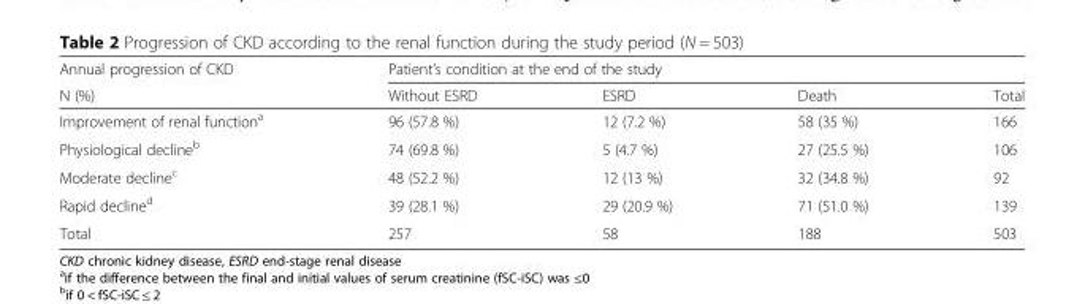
<table><thead><tr><td rowspan="2">Annual progression of CKD N (%)</td><td colspan="4">Patient’s condition at the end of the study</td></tr><tr><td>Without ESRD</td><td>ESRD</td><td>Death</td><td>Total</td></tr></thead><tbody><tr><td>Improvement of renal function<sup>a</sup></td><td>96 (57.8 %)</td><td>12 (7.2 %)</td><td>58 (35 %)</td><td>166</td></tr><tr><td>Physiological decline<sup>b</sup></td><td>74 (69.8 %)</td><td>5 (4.7 %)</td><td>27 (25.5 %)</td><td>106</td></tr><tr><td>Moderate decline<sup>c</sup></td><td>48 (52.2 %)</td><td>12 (13 %)</td><td>32 (34.8 %)</td><td>92</td></tr><tr><td>Rapid decline<sup>d</sup></td><td>39 (28.1 %)</td><td>29 (20.9 %)</td><td>71 (51.0 %)</td><td>139</td></tr><tr><td>Total</td><td>257</td><td>58</td><td>188</td><td>503</td></tr></tbody></table>